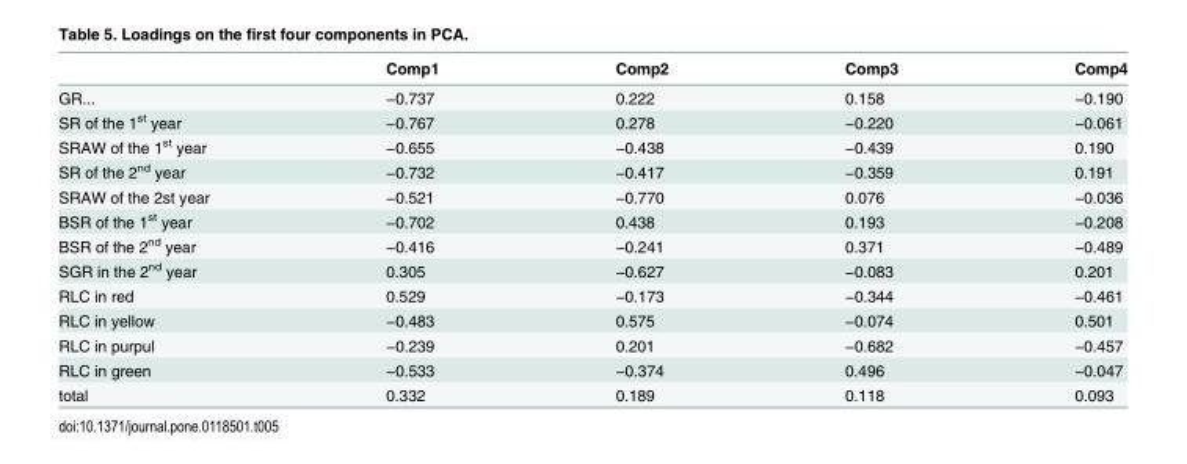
<table><thead><tr><td></td><td>Comp1</td><td>Comp2</td><td>Comp3</td><td>Comp4</td></tr></thead><tbody><tr><td>GR...</td><td>−0.737</td><td>0.222</td><td>0.158</td><td>−0.190</td></tr><tr><td>SR of the 1<sup>st</sup> year</td><td>−0.767</td><td>0.278</td><td>−0.220</td><td>−0.061</td></tr><tr><td>SRAW of the 1<sup>st</sup> year</td><td>−0.655</td><td>−0.438</td><td>−0.439</td><td>0.190</td></tr><tr><td>SR of the 2<sup>nd</sup> year</td><td>−0.732</td><td>−0.417</td><td>−0.359</td><td>0.191</td></tr><tr><td>SRAW of the 2st year</td><td>−0.521</td><td>−0.770</td><td>0.076</td><td>−0.036</td></tr><tr><td>BSR of the 1<sup>st</sup> year</td><td>−0.702</td><td>0.438</td><td>0.193</td><td>−0.208</td></tr><tr><td>BSR of the 2<sup>nd</sup> year</td><td>−0.416</td><td>−0.241</td><td>0.371</td><td>−0.489</td></tr><tr><td>SGR in the 2<sup>nd</sup> year</td><td>0.305</td><td>−0.627</td><td>−0.083</td><td>0.201</td></tr><tr><td>RLC in red</td><td>0.529</td><td>−0.173</td><td>−0.344</td><td>−0.461</td></tr><tr><td>RLC in yellow</td><td>−0.483</td><td>0.575</td><td>−0.074</td><td>0.501</td></tr><tr><td>RLC in purpul</td><td>−0.239</td><td>0.201</td><td>−0.682</td><td>−0.457</td></tr><tr><td>RLC in green</td><td>−0.533</td><td>−0.374</td><td>0.496</td><td>−0.047</td></tr><tr><td>total</td><td>0.332</td><td>0.189</td><td>0.118</td><td>0.093</td></tr></tbody></table>